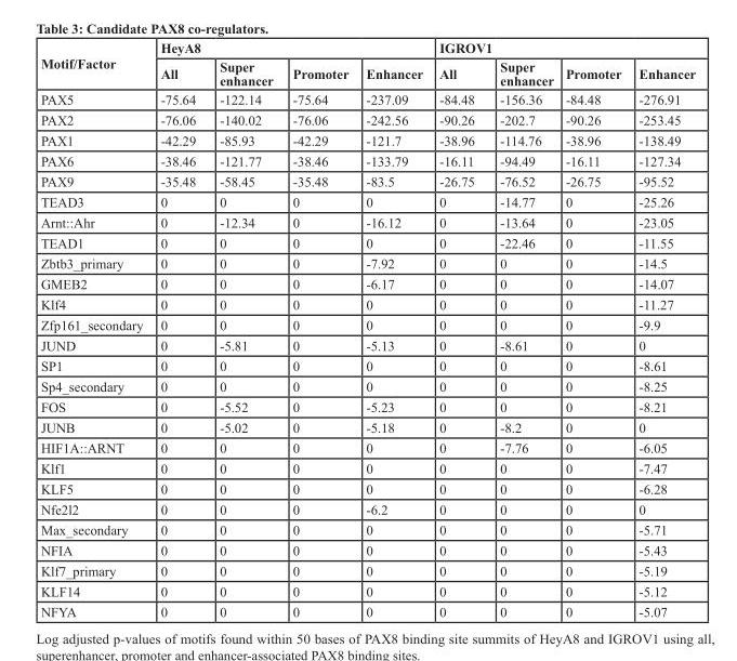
<table><thead><tr><td rowspan="2">Motif/Factor</td><td colspan="4">HeyA8</td><td colspan="4">IGROV1</td></tr><tr><td>All</td><td>Super enhancer</td><td>Promoter</td><td>Enhancer</td><td>All</td><td>Super enhancer</td><td>Promoter</td><td>Enhancer</td></tr></thead><tbody><tr><td>PAX5</td><td>-75.64</td><td>-122.14</td><td>-75.64</td><td>-237.09</td><td>-84.48</td><td>-156.36</td><td>-84.48</td><td>-276.91</td></tr><tr><td>PAX2</td><td>-76.06</td><td>-140.02</td><td>-76.06</td><td>-242.56</td><td>-90.26</td><td>-202.7</td><td>-90.26</td><td>-253.45</td></tr><tr><td>PAX1</td><td>-42.29</td><td>-85.93</td><td>-42.29</td><td>-121.7</td><td>-38.96</td><td>-114.76</td><td>-38.96</td><td>-138.49</td></tr><tr><td>PAX6</td><td>-38.46</td><td>-121.77</td><td>-38.46</td><td>-133.79</td><td>-16.11</td><td>-94.49</td><td>-16.11</td><td>-127.34</td></tr><tr><td>PAX9</td><td>-35.48</td><td>-58.45</td><td>-35.48</td><td>-83.5</td><td>-26.75</td><td>-76.52</td><td>-26.75</td><td>-95.52</td></tr><tr><td>TEAD3</td><td>0</td><td>0</td><td>0</td><td>0</td><td>0</td><td>-14.77</td><td>0</td><td>-25.26</td></tr><tr><td>Arnt::Ahr</td><td>0</td><td>-12.34</td><td>0</td><td>-16.12</td><td>0</td><td>-13.64</td><td>0</td><td>-23.05</td></tr><tr><td>TEAD1</td><td>0</td><td>0</td><td>0</td><td>0</td><td>0</td><td>-22.46</td><td>0</td><td>-11.55</td></tr><tr><td>Zbtb3_primary</td><td>0</td><td>0</td><td>0</td><td>-7.92</td><td>0</td><td>0</td><td>0</td><td>-14.5</td></tr><tr><td>GMEB2</td><td>0</td><td>0</td><td>0</td><td>-6.17</td><td>0</td><td>0</td><td>0</td><td>-14.07</td></tr><tr><td>Klf4</td><td>0</td><td>0</td><td>0</td><td>0</td><td>0</td><td>0</td><td>0</td><td>-11.27</td></tr><tr><td>Zfp161_secondary</td><td>0</td><td>0</td><td>0</td><td>0</td><td>0</td><td>0</td><td>0</td><td>-9.9</td></tr><tr><td>JUND</td><td>0</td><td>-5.81</td><td>0</td><td>-5.13</td><td>0</td><td>-8.61</td><td>0</td><td>0</td></tr><tr><td>SP1</td><td>0</td><td>0</td><td>0</td><td>0</td><td>0</td><td>0</td><td>0</td><td>-8.61</td></tr><tr><td>Sp4_secondary</td><td>0</td><td>0</td><td>0</td><td>0</td><td>0</td><td>0</td><td>0</td><td>-8.25</td></tr><tr><td>FOS</td><td>0</td><td>-5.52</td><td>0</td><td>-5.23</td><td>0</td><td>0</td><td>0</td><td>-8.21</td></tr><tr><td>JUNB</td><td>0</td><td>-5.02</td><td>0</td><td>-5.18</td><td>0</td><td>-8.2</td><td>0</td><td>0</td></tr><tr><td>HIF1A::ARNT</td><td>0</td><td>0</td><td>0</td><td>0</td><td>0</td><td>-7.76</td><td>0</td><td>-6.05</td></tr><tr><td>Klf1</td><td>0</td><td>0</td><td>0</td><td>0</td><td>0</td><td>0</td><td>0</td><td>-7.47</td></tr><tr><td>KLF5</td><td>0</td><td>0</td><td>0</td><td>0</td><td>0</td><td>0</td><td>0</td><td>-6.28</td></tr><tr><td>Nfe2l2</td><td>0</td><td>0</td><td>0</td><td>-6.2</td><td>0</td><td>0</td><td>0</td><td>0</td></tr><tr><td>Max_secondary</td><td>0</td><td>0</td><td>0</td><td>0</td><td>0</td><td>0</td><td>0</td><td>-5.71</td></tr><tr><td>NFIA</td><td>0</td><td>0</td><td>0</td><td>0</td><td>0</td><td>0</td><td>0</td><td>-5.43</td></tr><tr><td>Klf7_primary</td><td>0</td><td>0</td><td>0</td><td>0</td><td>0</td><td>0</td><td>0</td><td>-5.19</td></tr><tr><td>KLF14</td><td>0</td><td>0</td><td>0</td><td>0</td><td>0</td><td>0</td><td>0</td><td>-5.12</td></tr><tr><td>NFYA</td><td>0</td><td>0</td><td>0</td><td>0</td><td>0</td><td>0</td><td>0</td><td>-5.07</td></tr></tbody></table>